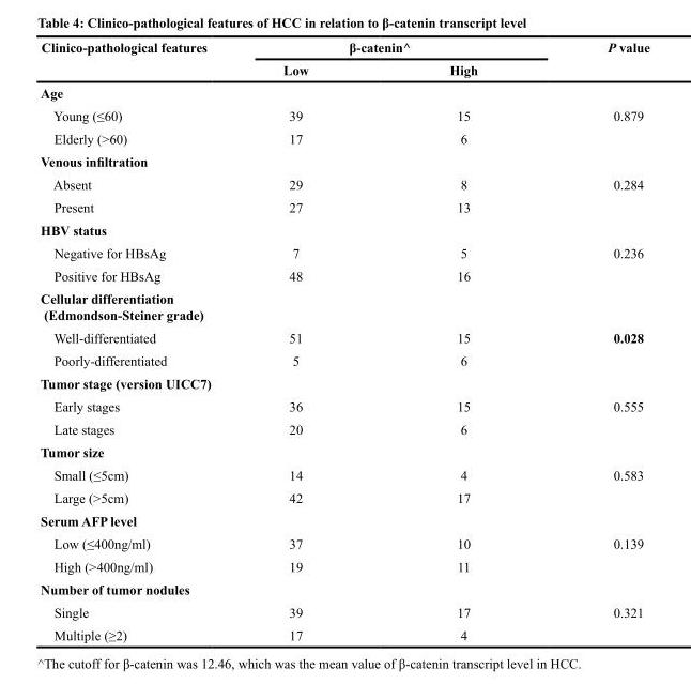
<table><thead><tr><td rowspan="2">Clinico-pathological features</td><td colspan="2">β-catenin^</td><td rowspan="2">P value</td></tr><tr><td>Low</td><td>High</td></tr></thead><tbody><tr><td colspan="4">Age</td></tr><tr><td>Young (≤60)</td><td>39</td><td>15</td><td>0.879</td></tr><tr><td>Elderly (&gt;60)</td><td>17</td><td>6</td><td></td></tr><tr><td colspan="4">Venous infiltration</td></tr><tr><td>Absent</td><td>29</td><td>8</td><td>0.284</td></tr><tr><td>Present</td><td>27</td><td>13</td><td></td></tr><tr><td colspan="4">HBV status</td></tr><tr><td>Negative for HBsAg</td><td>7</td><td>5</td><td>0.236</td></tr><tr><td>Positive for HBsAg</td><td>48</td><td>16</td><td></td></tr><tr><td colspan="4">Cellular differentiation (Edmondson-Steiner grade)</td></tr><tr><td>Well-differentiated</td><td>51</td><td>15</td><td>0.028</td></tr><tr><td>Poorly-differentiated</td><td>5</td><td>6</td><td></td></tr><tr><td colspan="4">Tumor stage (version UICC7)</td></tr><tr><td>Early stages</td><td>36</td><td>15</td><td>0.555</td></tr><tr><td>Late stages</td><td>20</td><td>6</td><td></td></tr><tr><td colspan="4">Tumor size</td></tr><tr><td>Small (≤5cm)</td><td>14</td><td>4</td><td>0.583</td></tr><tr><td>Large (&gt;5cm)</td><td>42</td><td>17</td><td></td></tr><tr><td colspan="4">Serum AFP level</td></tr><tr><td>Low (≤400ng/ml)</td><td>37</td><td>10</td><td>0.139</td></tr><tr><td>High (&gt;400ng/ml)</td><td>19</td><td>11</td><td></td></tr><tr><td colspan="4">Number of tumor nodules</td></tr><tr><td>Single</td><td>39</td><td>17</td><td>0.321</td></tr><tr><td>Multiple (≥2)</td><td>17</td><td>4</td><td></td></tr></tbody></table>